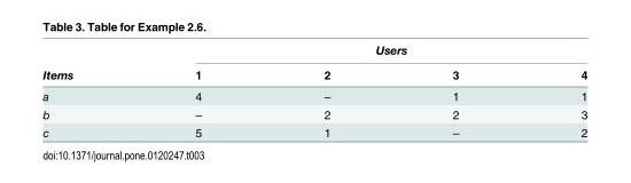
<table><thead><tr><td rowspan="2">Items</td><td colspan="4">Users</td></tr><tr><td>1</td><td>2</td><td>3</td><td>4</td></tr></thead><tbody><tr><td>a</td><td>4</td><td>–</td><td>1</td><td>1</td></tr><tr><td>b</td><td>–</td><td>2</td><td>2</td><td>3</td></tr><tr><td>c</td><td>5</td><td>1</td><td>–</td><td>2</td></tr></tbody></table>